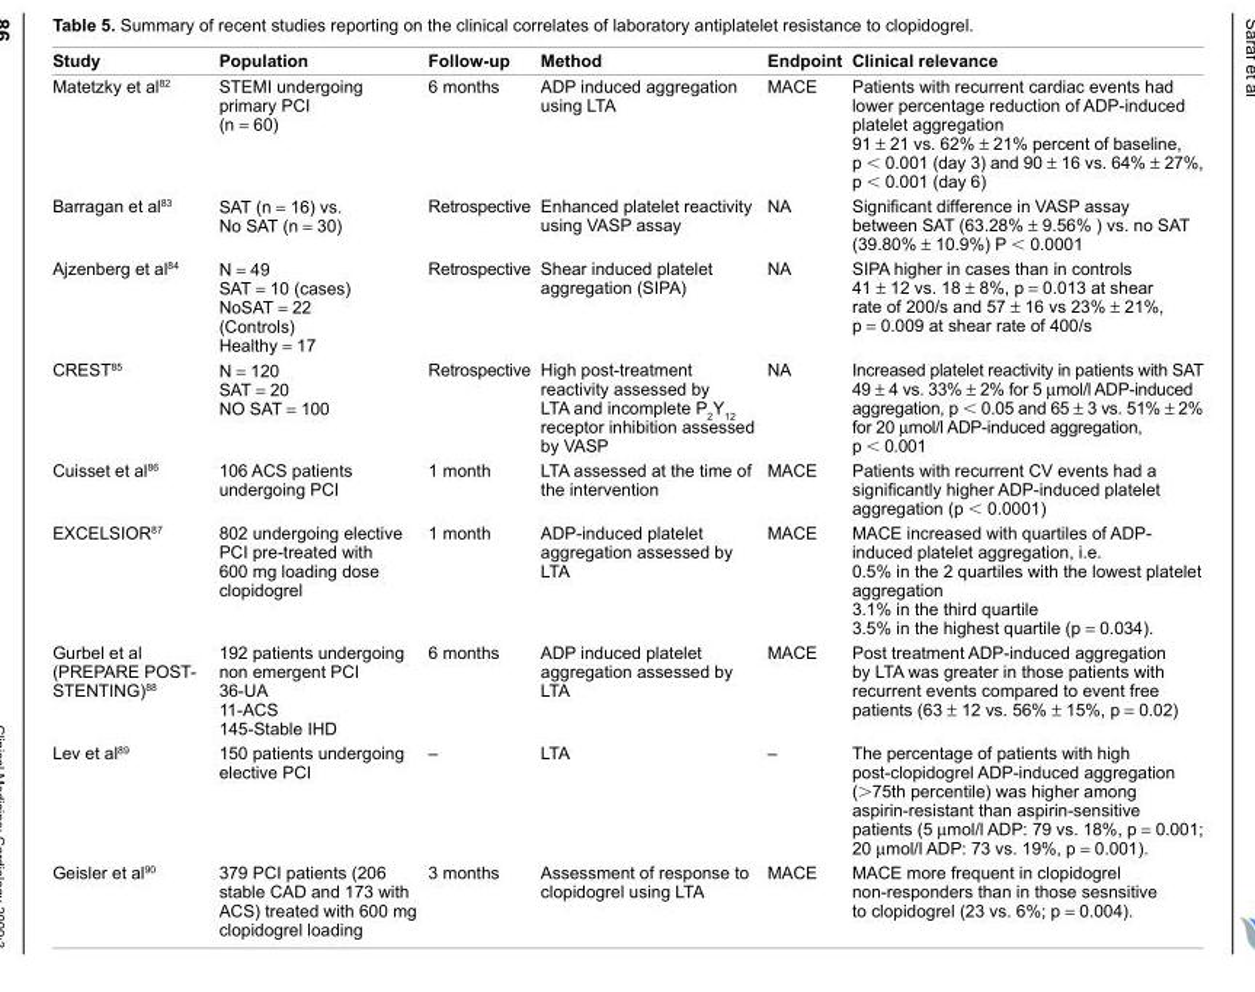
<table><thead><tr><td>study</td><td>population</td><td>Follow-up</td><td>Method</td><td>endpoint</td><td>clinical relevance</td></tr></thead><tbody><tr><td>Matetzky et al<sup>82</sup></td><td>STeMi undergoing primary PCi (n = 60)</td><td>6 months</td><td>ADP induced aggregation using LTA</td><td>MACe</td><td>Patients with recurrent cardiac events had lower percentage reduction of ADP-induced platelet aggregation 91 ± 21 vs. 62% ± 21% percent of baseline, p &lt; 0.001 (day 3) and 90 ± 16 vs. 64% ± 27%, p &lt; 0.001 (day 6)</td></tr><tr><td>Barragan et al<sup>83</sup></td><td>SAT (n = 16) vs. No SAT (n = 30)</td><td>Retrospective</td><td>enhanced platelet reactivity using vASP assay</td><td>NA</td><td>Significant difference in VASP assay between SAT (63.28% ± 9.56% ) vs. no SAT (39.80% ± 10.9%) P &lt; 0.0001</td></tr><tr><td>Ajzenberg et al<sup>84</sup></td><td>N = 49 SAT = 10 (cases) NoSAT = 22 (Controls) Healthy = 17</td><td>Retrospective</td><td>Shear induced platelet aggregation (SiPA)</td><td>NA</td><td>SiPA higher in cases than in controls 41 ± 12 vs. 18 ± 8%, p = 0.013 at shear rate of 200/s and 57 ± 16 vs 23% ± 21%, p = 0.009 at shear rate of 400/s</td></tr><tr><td>CReST<sup>85</sup></td><td>N = 120 SAT = 20 NO SAT = 100</td><td>Retrospective</td><td>High post-treatment reactivity assessed by LTA and incomplete P<sub>2</sub>Y<sub>12</sub> receptor inhibition assessed by vASP</td><td>NA</td><td>increased platelet reactivity in patients with SAT 49 ± 4 vs. 33% ± 2% for 5 µmol/l ADP-induced aggregation, p &lt; 0.05 and 65 ± 3 vs. 51% ± 2% for 20 µmol/l ADP-induced aggregation, p &lt; 0.001</td></tr><tr><td>Cuisset et al<sup>86</sup></td><td>106 ACS patients undergoing PCi</td><td>1 month</td><td>LTA assessed at the time of the intervention</td><td>MACe</td><td>Patients with recurrent Cv events had a significantly higher ADP-induced platelet aggregation (p &lt; 0.0001)</td></tr><tr><td>eXCeLSiOR<sup>87</sup></td><td>802 undergoing elective PCi pre-treated with 600 mg loading dose clopidogrel</td><td>1 month</td><td>ADP-induced platelet aggregation assessed by LTA</td><td>MACe</td><td>MACe increased with quartiles of ADP- induced platelet aggregation, i.e. 0.5% in the 2 quartiles with the lowest platelet aggregation 3.1% in the third quartile 3.5% in the highest quartile (p = 0.034).</td></tr><tr><td>Gurbel et al (PRePARe POST- STeNTiNG)<sup>88</sup></td><td>192 patients undergoing non emergent PCi 36-UA 11-ACS 145-Stable iHD</td><td>6 months</td><td>ADP induced platelet aggregation assessed by LTA</td><td>MACe</td><td>Post treatment ADP-induced aggregation by LTA was greater in those patients with recurrent events compared to event free patients (63 ± 12 vs. 56% ± 15%, p = 0.02)</td></tr><tr><td>Lev et al<sup>89</sup></td><td>150 patients undergoing elective PCi</td><td>–</td><td>LTA</td><td>–</td><td>The percentage of patients with high post-clopidogrel ADP-induced aggregation (&gt;75th percentile) was higher among aspirin-resistant than aspirin-sensitive patients (5 µmol/l ADP: 79 vs. 18%, p = 0.001; 20 µmol/l ADP: 73 vs. 19%, p = 0.001).</td></tr><tr><td>Geisler et al<sup>90</sup></td><td>379 PCi patients (206 stable CAD and 173 with ACS) treated with 600 mg clopidogrel loading</td><td>3 months</td><td>Assessment of response to clopidogrel using LTA</td><td>MACe</td><td>MACe more frequent in clopidogrel non-responders than in those sesnsitive to clopidogrel (23 vs. 6%; p = 0.004).</td></tr></tbody></table>